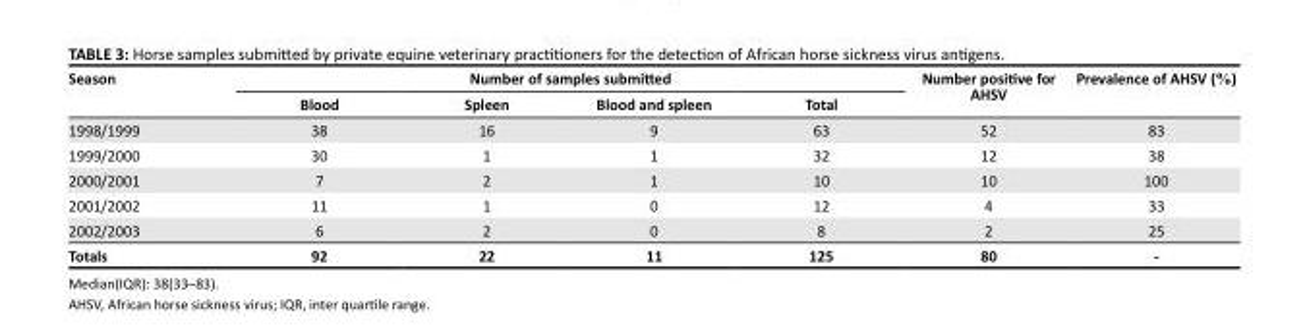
<table><thead><tr><td rowspan="2">Season</td><td colspan="4">Number of samples submitted</td><td rowspan="2">Number positive for AHSV</td><td rowspan="2">Prevalence of AHSV (%)</td></tr><tr><td>Blood</td><td>Spleen</td><td>Blood and spleen</td><td>Total</td></tr></thead><tbody><tr><td>1998/1999</td><td>38</td><td>16</td><td>9</td><td>63</td><td>52</td><td>83</td></tr><tr><td>1999/2000</td><td>30</td><td>1</td><td>1</td><td>32</td><td>12</td><td>38</td></tr><tr><td>2000/2001</td><td>7</td><td>2</td><td>1</td><td>10</td><td>10</td><td>100</td></tr><tr><td>2001/2002</td><td>11</td><td>1</td><td>0</td><td>12</td><td>4</td><td>33</td></tr><tr><td>2002/2003</td><td>6</td><td>2</td><td>0</td><td>8</td><td>2</td><td>25</td></tr><tr><td>Totals</td><td>92</td><td>22</td><td>11</td><td>125</td><td>80</td><td>-</td></tr></tbody></table>